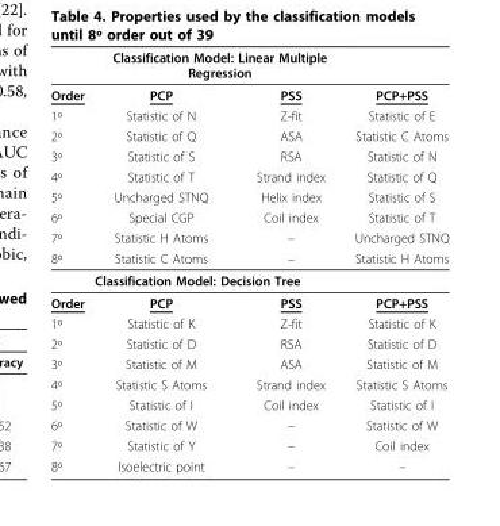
<table><thead><tr><td rowspan="2">Order</td><td colspan="2">Classification Model: Linear Multiple Regression</td><td rowspan="2">PCP+PSS</td></tr><tr><td>PCP</td><td>PSS</td></tr></thead><tbody><tr><td>1º</td><td>Statistic of N</td><td>Z-fit</td><td>Statistic of E</td></tr><tr><td>2º</td><td>Statistic of Q</td><td>ASA</td><td>Statistic C Atoms</td></tr><tr><td>3º</td><td>Statistic of S</td><td>RSA</td><td>Statistic of N</td></tr><tr><td>4º</td><td>Statistic of T</td><td>Strand index</td><td>Statistic of Q</td></tr><tr><td>5º</td><td>Uncharged STNQ</td><td>Helix index</td><td>Statistic of S</td></tr><tr><td>6º</td><td>Special CGP</td><td>Coil index</td><td>Statistic of T</td></tr><tr><td>7º</td><td>Statistic H Atoms</td><td>–</td><td>Uncharged STNQ</td></tr><tr><td rowspan="2">8º</td><td>Statistic C Atoms</td><td>–</td><td>Statistic H Atoms</td></tr><tr><td colspan="2">Classification Model: Decision Tree</td><td></td></tr><tr><td>Order</td><td>PCP</td><td>PSS</td><td>PCP+PSS</td></tr><tr><td>1º</td><td>Statistic of K</td><td>Z-fit</td><td>Statistic of K</td></tr><tr><td>2º</td><td>Statistic of D</td><td>RSA</td><td>Statistic of D</td></tr><tr><td>3º</td><td>Statistic of M</td><td>ASA</td><td>Statistic of M</td></tr><tr><td>4º</td><td>Statistic S Atoms</td><td>Strand index</td><td>Statistic S Atoms</td></tr><tr><td>5º</td><td>Statistic of I</td><td>Coil index</td><td>Statistic of I</td></tr><tr><td>6º</td><td>Statistic of W</td><td>–</td><td>Statistic of W</td></tr><tr><td>7º</td><td>Statistic of Y</td><td>–</td><td>Coil index</td></tr><tr><td>8º</td><td>Isoelectric point</td><td>–</td><td>–</td></tr></tbody></table>